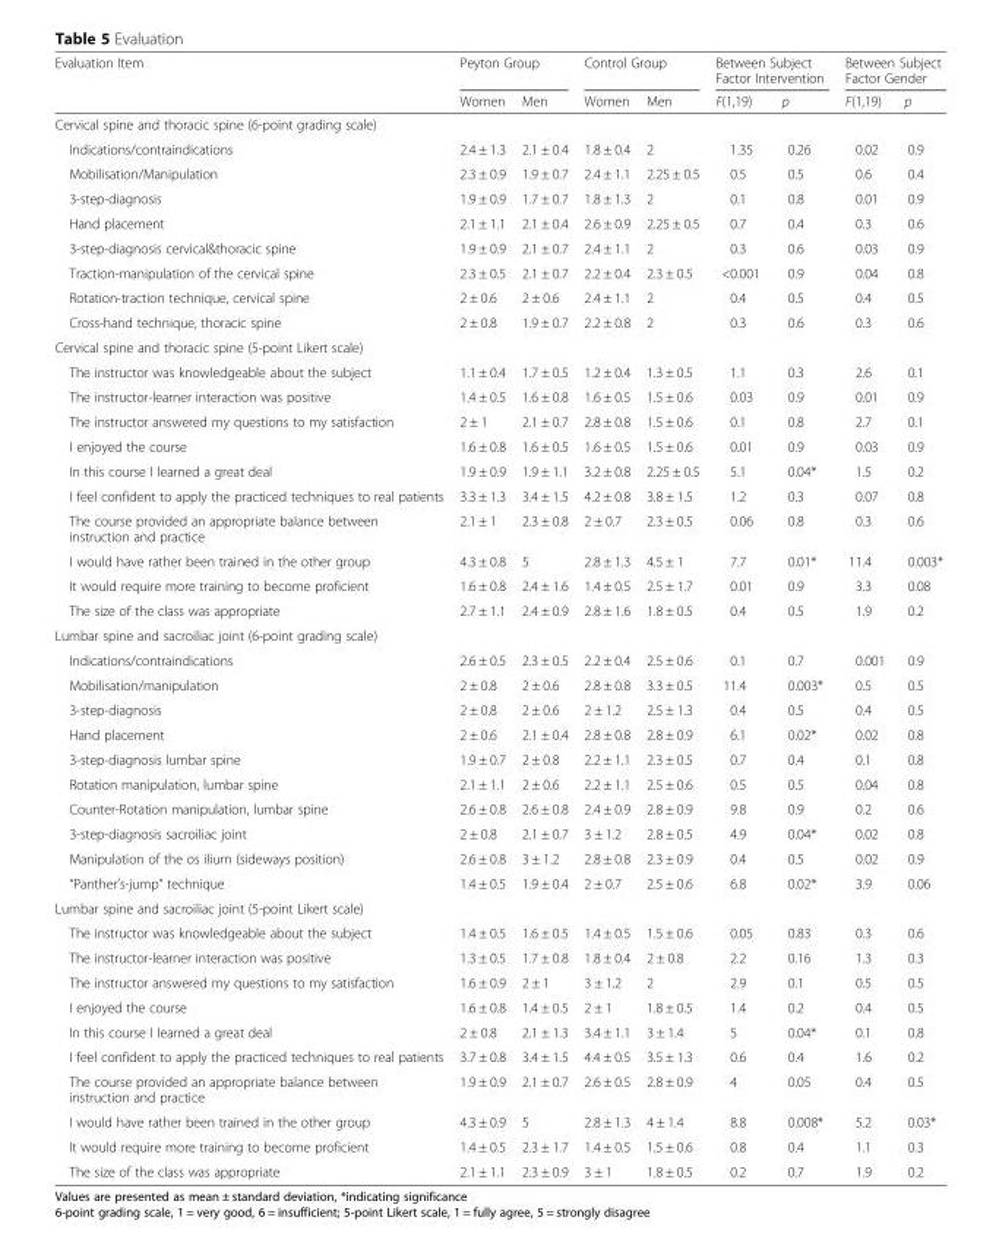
<table><thead><tr><td rowspan="2">Evaluation Item</td><td colspan="2">Peyton Group</td><td colspan="2">Control Group</td><td colspan="2">Between Subject Factor Intervention</td><td colspan="2">Between Subject Factor Gender</td></tr><tr><td>Women</td><td>Men</td><td>Women</td><td>Men</td><td>F(1,19)</td><td>p</td><td>F(1,19)</td><td>p</td></tr></thead><tbody><tr><td colspan="9">Cervical spine and thoracic spine (6-point grading scale)</td></tr><tr><td>Indications/contraindications</td><td>2.4 ± 1.3</td><td>2.1 ± 0.4</td><td>1.8 ± 0.4</td><td>2</td><td>1.35</td><td>0.26</td><td>0.02</td><td>0.9</td></tr><tr><td>Mobilisation/Manipulation</td><td>2.3 ± 0.9</td><td>1.9 ± 0.7</td><td>2.4 ± 1.1</td><td>2.25 ± 0.5</td><td>0.5</td><td>0.5</td><td>0.6</td><td>0.4</td></tr><tr><td>3-step-diagnosis</td><td>1.9 ± 0.9</td><td>1.7 ± 0.7</td><td>1.8 ± 1.3</td><td>2</td><td>0.1</td><td>0.8</td><td>0.01</td><td>0.9</td></tr><tr><td>Hand placement</td><td>2.1 ± 1.1</td><td>2.1 ± 0.4</td><td>2.6 ± 0.9</td><td>2.25 ± 0.5</td><td>0.7</td><td>0.4</td><td>0.3</td><td>0.6</td></tr><tr><td>3-step-diagnosis cervical&amp;thoracic spine</td><td>1.9 ± 0.9</td><td>2.1 ± 0.7</td><td>2.4 ± 1.1</td><td>2</td><td>0.3</td><td>0.6</td><td>0.03</td><td>0.9</td></tr><tr><td>Traction-manipulation of the cervical spine</td><td>2.3 ± 0.5</td><td>2.1 ± 0.7</td><td>2.2 ± 0.4</td><td>2.3 ± 0.5</td><td>&lt;0.001</td><td>0.9</td><td>0.04</td><td>0.8</td></tr><tr><td>Rotation-traction technique, cervical spine</td><td>2 ± 0.6</td><td>2 ± 0.6</td><td>2.4 ± 1.1</td><td>2</td><td>0.4</td><td>0.5</td><td>0.4</td><td>0.5</td></tr><tr><td>Cross-hand technique, thoracic spine</td><td>2 ± 0.8</td><td>1.9 ± 0.7</td><td>2.2 ± 0.8</td><td>2</td><td>0.3</td><td>0.6</td><td>0.3</td><td>0.6</td></tr><tr><td colspan="9">Cervical spine and thoracic spine (5-point Likert scale)</td></tr><tr><td>The instructor was knowledgeable about the subject</td><td>1.1 ± 0.4</td><td>1.7 ± 0.5</td><td>1.2 ± 0.4</td><td>1.3 ± 0.5</td><td>1.1</td><td>0.3</td><td>2.6</td><td>0.1</td></tr><tr><td>The instructor-learner interaction was positive</td><td>1.4 ± 0.5</td><td>1.6 ± 0.8</td><td>1.6 ± 0.5</td><td>1.5 ± 0.6</td><td>0.03</td><td>0.9</td><td>0.01</td><td>0.9</td></tr><tr><td>The instructor answered my questions to my satisfaction</td><td>2 ± 1</td><td>2.1 ± 0.7</td><td>2.8 ± 0.8</td><td>1.5 ± 0.6</td><td>0.1</td><td>0.8</td><td>2.7</td><td>0.1</td></tr><tr><td>I enjoyed the course</td><td>1.6 ± 0.8</td><td>1.6 ± 0.5</td><td>1.6 ± 0.5</td><td>1.5 ± 0.6</td><td>0.01</td><td>0.9</td><td>0.03</td><td>0.9</td></tr><tr><td>In this course I learned a great deal</td><td>1.9 ± 0.9</td><td>1.9 ± 1.1</td><td>3.2 ± 0.8</td><td>2.25 ± 0.5</td><td>5.1</td><td>0.04*</td><td>1.5</td><td>0.2</td></tr><tr><td>I feel confident to apply the practiced techniques to real patients</td><td>3.3 ± 1.3</td><td>3.4 ± 1.5</td><td>4.2 ± 0.8</td><td>3.8 ± 1.5</td><td>1.2</td><td>0.3</td><td>0.07</td><td>0.8</td></tr><tr><td>The course provided an appropriate balance between instruction and practice</td><td>2.1 ± 1</td><td>2.3 ± 0.8</td><td>2 ± 0.7</td><td>2.3 ± 0.5</td><td>0.06</td><td>0.8</td><td>0.3</td><td>0.6</td></tr><tr><td>I would have rather been trained in the other group</td><td>4.3 ± 0.8</td><td>5</td><td>2.8 ± 1.3</td><td>4.5 ± 1</td><td>7.7</td><td>0.01*</td><td>11.4</td><td>0.003*</td></tr><tr><td>It would require more training to become proficient</td><td>1.6 ± 0.8</td><td>2.4 ± 1.6</td><td>1.4 ± 0.5</td><td>2.5 ± 1.7</td><td>0.01</td><td>0.9</td><td>3.3</td><td>0.08</td></tr><tr><td>The size of the class was appropriate</td><td>2.7 ± 1.1</td><td>2.4 ± 0.9</td><td>2.8 ± 1.6</td><td>1.8 ± 0.5</td><td>0.4</td><td>0.5</td><td>1.9</td><td>0.2</td></tr><tr><td colspan="9">Lumbar spine and sacroiliac joint (6-point grading scale)</td></tr><tr><td>Indications/contraindications</td><td>2.6 ± 0.5</td><td>2.3 ± 0.5</td><td>2.2 ± 0.4</td><td>2.5 ± 0.6</td><td>0.1</td><td>0.7</td><td>0.001</td><td>0.9</td></tr><tr><td>Mobilisation/manipulation</td><td>2 ± 0.8</td><td>2 ± 0.6</td><td>2.8 ± 0.8</td><td>3.3 ± 0.5</td><td>11.4</td><td>0.003*</td><td>0.5</td><td>0.5</td></tr><tr><td>3-step-diagnosis</td><td>2 ± 0.8</td><td>2 ± 0.6</td><td>2 ± 1.2</td><td>2.5 ± 1.3</td><td>0.4</td><td>0.5</td><td>0.4</td><td>0.5</td></tr><tr><td>Hand placement</td><td>2 ± 0.6</td><td>2.1 ± 0.4</td><td>2.8 ± 0.8</td><td>2.8 ± 0.9</td><td>6.1</td><td>0.02*</td><td>0.02</td><td>0.8</td></tr><tr><td>3-step-diagnosis lumbar spine</td><td>1.9 ± 0.7</td><td>2 ± 0.8</td><td>2.2 ± 1.1</td><td>2.3 ± 0.5</td><td>0.7</td><td>0.4</td><td>0.1</td><td>0.8</td></tr><tr><td>Rotation manipulation, lumbar spine</td><td>2.1 ± 1.1</td><td>2 ± 0.6</td><td>2.2 ± 1.1</td><td>2.5 ± 0.6</td><td>0.5</td><td>0.5</td><td>0.04</td><td>0.8</td></tr><tr><td>Counter-Rotation manipulation, lumbar spine</td><td>2.6 ± 0.8</td><td>2.6 ± 0.8</td><td>2.4 ± 0.9</td><td>2.8 ± 0.9</td><td>9.8</td><td>0.9</td><td>0.2</td><td>0.6</td></tr><tr><td>3-step-diagnosis sacroiliac joint</td><td>2 ± 0.8</td><td>2.1 ± 0.7</td><td>3 ± 1.2</td><td>2.8 ± 0.5</td><td>4.9</td><td>0.04*</td><td>0.02</td><td>0.8</td></tr><tr><td>Manipulation of the os ilium (sideways position)</td><td>2.6 ± 0.8</td><td>3 ± 1.2</td><td>2.8 ± 0.8</td><td>2.3 ± 0.9</td><td>0.4</td><td>0.5</td><td>0.02</td><td>0.9</td></tr><tr><td>“Panther’s-jump” technique</td><td>1.4 ± 0.5</td><td>1.9 ± 0.4</td><td>2 ± 0.7</td><td>2.5 ± 0.6</td><td>6.8</td><td>0.02*</td><td>3.9</td><td>0.06</td></tr><tr><td colspan="9">Lumbar spine and sacroiliac joint (5-point Likert scale)</td></tr><tr><td>The instructor was knowledgeable about the subject</td><td>1.4 ± 0.5</td><td>1.6 ± 0.5</td><td>1.4 ± 0.5</td><td>1.5 ± 0.6</td><td>0.05</td><td>0.83</td><td>0.3</td><td>0.6</td></tr><tr><td>The instructor-learner interaction was positive</td><td>1.3 ± 0.5</td><td>1.7 ± 0.8</td><td>1.8 ± 0.4</td><td>2 ± 0.8</td><td>2.2</td><td>0.16</td><td>1.3</td><td>0.3</td></tr><tr><td>The instructor answered my questions to my satisfaction</td><td>1.6 ± 0.9</td><td>2 ± 1</td><td>3 ± 1.2</td><td>2</td><td>2.9</td><td>0.1</td><td>0.5</td><td>0.5</td></tr><tr><td>I enjoyed the course</td><td>1.6 ± 0.8</td><td>1.4 ± 0.5</td><td>2 ± 1</td><td>1.8 ± 0.5</td><td>1.4</td><td>0.2</td><td>0.4</td><td>0.5</td></tr><tr><td>In this course I learned a great deal</td><td>2 ± 0.8</td><td>2.1 ± 1.3</td><td>3.4 ± 1.1</td><td>3 ± 1.4</td><td>5</td><td>0.04*</td><td>0.1</td><td>0.8</td></tr><tr><td>I feel confident to apply the practiced techniques to real patients</td><td>3.7 ± 0.8</td><td>3.4 ± 1.5</td><td>4.4 ± 0.5</td><td>3.5 ± 1.3</td><td>0.6</td><td>0.4</td><td>1.6</td><td>0.2</td></tr><tr><td>The course provided an appropriate balance between instruction and practice</td><td>1.9 ± 0.9</td><td>2.1 ± 0.7</td><td>2.6 ± 0.5</td><td>2.8 ± 0.9</td><td>4</td><td>0.05</td><td>0.4</td><td>0.5</td></tr><tr><td>I would have rather been trained in the other group</td><td>4.3 ± 0.9</td><td>5</td><td>2.8 ± 1.3</td><td>4 ± 1.4</td><td>8.8</td><td>0.008*</td><td>5.2</td><td>0.03*</td></tr><tr><td>It would require more training to become proficient</td><td>1.4 ± 0.5</td><td>2.3 ± 1.7</td><td>1.4 ± 0.5</td><td>1.5 ± 0.6</td><td>0.8</td><td>0.4</td><td>1.1</td><td>0.3</td></tr><tr><td>The size of the class was appropriate</td><td>2.1 ± 1.1</td><td>2.3 ± 0.9</td><td>3 ± 1</td><td>1.8 ± 0.5</td><td>0.2</td><td>0.7</td><td>1.9</td><td>0.2</td></tr></tbody></table>